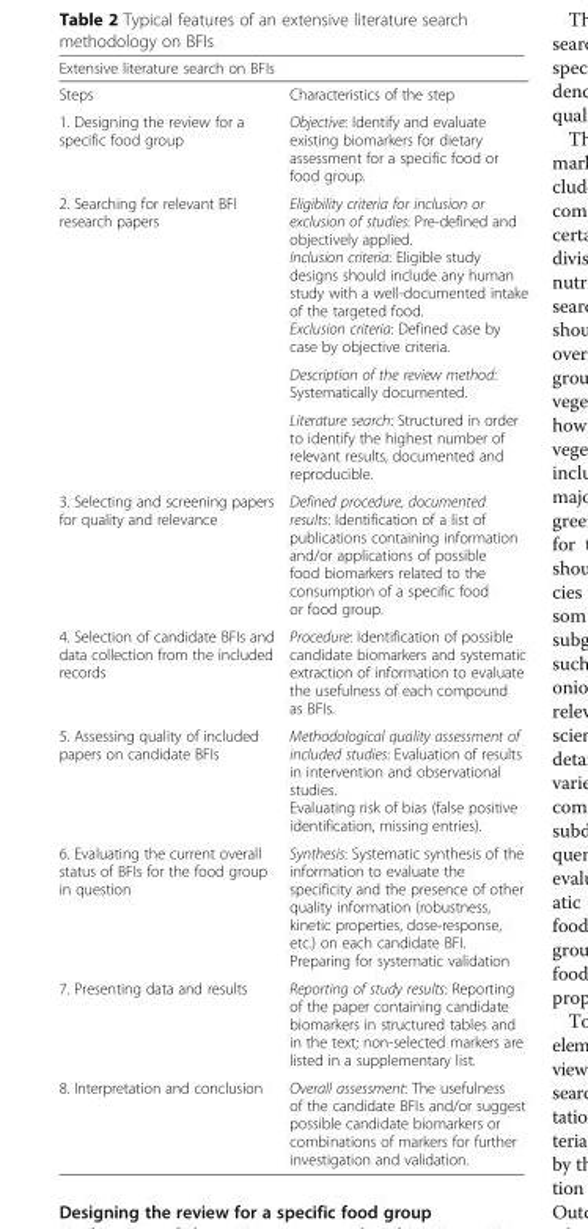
<table><thead><tr><td colspan="2">Extensive literature search on BFIs</td></tr><tr><td>Steps</td><td>Characteristics of the step</td></tr></thead><tbody><tr><td>1. Designing the review for a specific food group</td><td>Objective: Identify and evaluate existing biomarkers for dietary assessment for a specific food or food group.</td></tr><tr><td rowspan="3">2. Searching for relevant BFI research papers</td><td>Eligibility criteria for inclusion or exclusion of studies: Pre-defined and objectively applied. Inclusion criteria: Eligible study designs should include any human study with a well-documented intake of the targeted food. Exclusion criteria: Defined case by case by objective criteria.</td></tr><tr><td>Description of the review method: Systematically documented.</td></tr><tr><td>Literature search: Structured in order to identify the highest number of relevant results, documented and reproducible.</td></tr><tr><td>3. Selecting and screening papers for quality and relevance</td><td>Defined procedure, documented results: Identification of a list of publications containing information and/or applications of possible food biomarkers related to the consumption of a specific food or food group.</td></tr><tr><td>4. Selection of candidate BFIs and data collection from the included records</td><td>Procedure: Identification of possible candidate biomarkers and systematic extraction of information to evaluate the usefulness of each compound as BFIs.</td></tr><tr><td>5. Assessing quality of included papers on candidate BFIs</td><td>Methodological quality assessment of included studies: Evaluation of results in intervention and observational studies. Evaluating risk of bias (false positive identification, missing entries).</td></tr><tr><td>6. Evaluating the current overall status of BFIs for the food group in question</td><td>Synthesis: Systematic synthesis of the information to evaluate the specificity and the presence of other quality information (robustness, kinetic properties, dose-response, etc.) on each candidate BFI. Preparing for systematic validation</td></tr><tr><td>7. Presenting data and results</td><td>Reporting of study results: Reporting of the paper containing candidate biomarkers in structured tables and in the text; non-selected markers are listed in a supplementary list.</td></tr><tr><td>8. Interpretation and conclusion</td><td>Overall assessment: The usefulness of the candidate BFIs and/or suggest possible candidate biomarkers or combinations of markers for further investigation and validation.</td></tr></tbody></table>